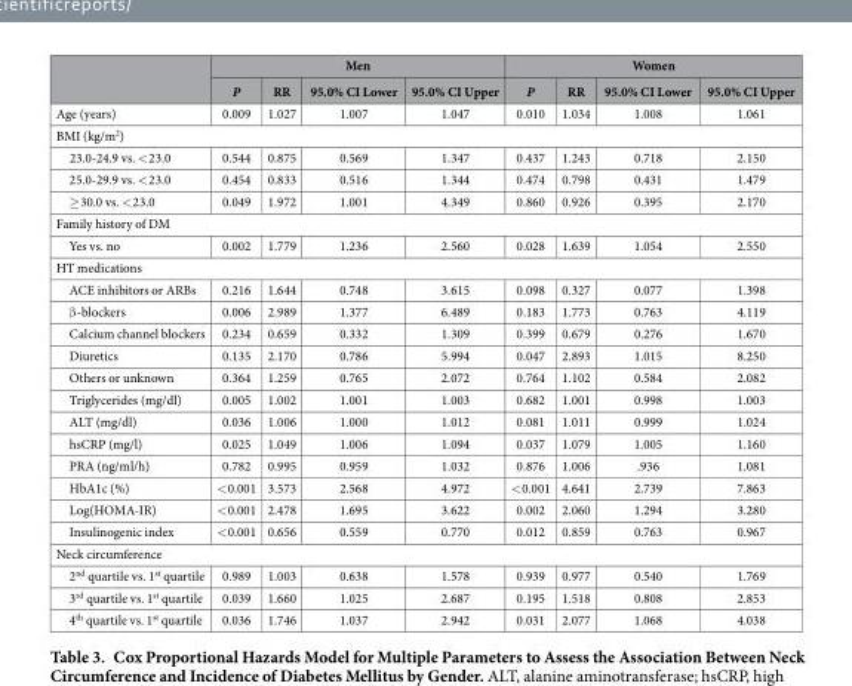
<table><thead><tr><td rowspan="2"></td><td colspan="4">Men</td><td colspan="4">Women</td></tr><tr><td>P</td><td>RR</td><td>95.0% CI Lower</td><td>95.0% CI Upper</td><td>P</td><td>RR</td><td>95.0% CI Lower</td><td>95.0% CI Upper</td></tr></thead><tbody><tr><td>Age (years)</td><td>0.009</td><td>1.027</td><td>1.007</td><td>1.047</td><td>0.010</td><td>1.034</td><td>1.008</td><td>1.061</td></tr><tr><td colspan="9">BMI (kg/m<sup>2</sup>)</td></tr><tr><td>23.0-24.9 vs. &lt; 23.0</td><td>0.544</td><td>0.875</td><td>0.569</td><td>1.347</td><td>0.437</td><td>1.243</td><td>0.718</td><td>2.150</td></tr><tr><td>25.0-29.9 vs. &lt; 23.0</td><td>0.454</td><td>0.833</td><td>0.516</td><td>1.344</td><td>0.474</td><td>0.798</td><td>0.431</td><td>1.479</td></tr><tr><td>≥ 30.0 vs. &lt; 23.0</td><td>0.049</td><td>1.972</td><td>1.001</td><td>4.349</td><td>0.860</td><td>0.926</td><td>0.395</td><td>2.170</td></tr><tr><td colspan="9">Family history of DM</td></tr><tr><td>Yes vs. no</td><td>0.002</td><td>1.779</td><td>1.236</td><td>2.560</td><td>0.028</td><td>1.639</td><td>1.054</td><td>2.550</td></tr><tr><td colspan="9">HT medications</td></tr><tr><td>ACE inhibitors or ARBs</td><td>0.216</td><td>1.644</td><td>0.748</td><td>3.615</td><td>0.098</td><td>0.327</td><td>0.077</td><td>1.398</td></tr><tr><td>β -blockers</td><td>0.006</td><td>2.989</td><td>1.377</td><td>6.489</td><td>0.183</td><td>1.773</td><td>0.763</td><td>4.119</td></tr><tr><td>Calcium channel blockers</td><td>0.234</td><td>0.659</td><td>0.332</td><td>1.309</td><td>0.399</td><td>0.679</td><td>0.276</td><td>1.670</td></tr><tr><td>Diuretics</td><td>0.135</td><td>2.170</td><td>0.786</td><td>5.994</td><td>0.047</td><td>2.893</td><td>1.015</td><td>8.250</td></tr><tr><td>Others or unknown</td><td>0.364</td><td>1.259</td><td>0.765</td><td>2.072</td><td>0.764</td><td>1.102</td><td>0.584</td><td>2.082</td></tr><tr><td>Triglycerides (mg/dl)</td><td>0.005</td><td>1.002</td><td>1.001</td><td>1.003</td><td>0.682</td><td>1.001</td><td>0.998</td><td>1.003</td></tr><tr><td>ALT (mg/dl)</td><td>0.036</td><td>1.006</td><td>1.000</td><td>1.012</td><td>0.081</td><td>1.011</td><td>0.999</td><td>1.024</td></tr><tr><td>hsCRP (mg/l)</td><td>0.025</td><td>1.049</td><td>1.006</td><td>1.094</td><td>0.037</td><td>1.079</td><td>1.005</td><td>1.160</td></tr><tr><td>PRA (ng/ml/h)</td><td>0.782</td><td>0.995</td><td>0.959</td><td>1.032</td><td>0.876</td><td>1.006</td><td>.936</td><td>1.081</td></tr><tr><td>HbA1c (%)</td><td>&lt; 0.001</td><td>3.573</td><td>2.568</td><td>4.972</td><td>&lt; 0.001</td><td>4.641</td><td>2.739</td><td>7.863</td></tr><tr><td>Log(HOMA-IR)</td><td>&lt; 0.001</td><td>2.478</td><td>1.695</td><td>3.622</td><td>0.002</td><td>2.060</td><td>1.294</td><td>3.280</td></tr><tr><td>Insulinogenic index</td><td>&lt; 0.001</td><td>0.656</td><td>0.559</td><td>0.770</td><td>0.012</td><td>0.859</td><td>0.763</td><td>0.967</td></tr><tr><td colspan="9">Neck circumference</td></tr><tr><td>2<sup>nd</sup> quartile vs. 1<sup>st</sup> quartile</td><td>0.989</td><td>1.003</td><td>0.638</td><td>1.578</td><td>0.939</td><td>0.977</td><td>0.540</td><td>1.769</td></tr><tr><td>3<sup>rd</sup> quartile vs. 1<sup>st</sup> quartile</td><td>0.039</td><td>1.660</td><td>1.025</td><td>2.687</td><td>0.195</td><td>1.518</td><td>0.808</td><td>2.853</td></tr><tr><td>4<sup>th</sup> quartile vs. 1<sup>st</sup> quartile</td><td>0.036</td><td>1.746</td><td>1.037</td><td>2.942</td><td>0.031</td><td>2.077</td><td>1.068</td><td>4.038</td></tr></tbody></table>